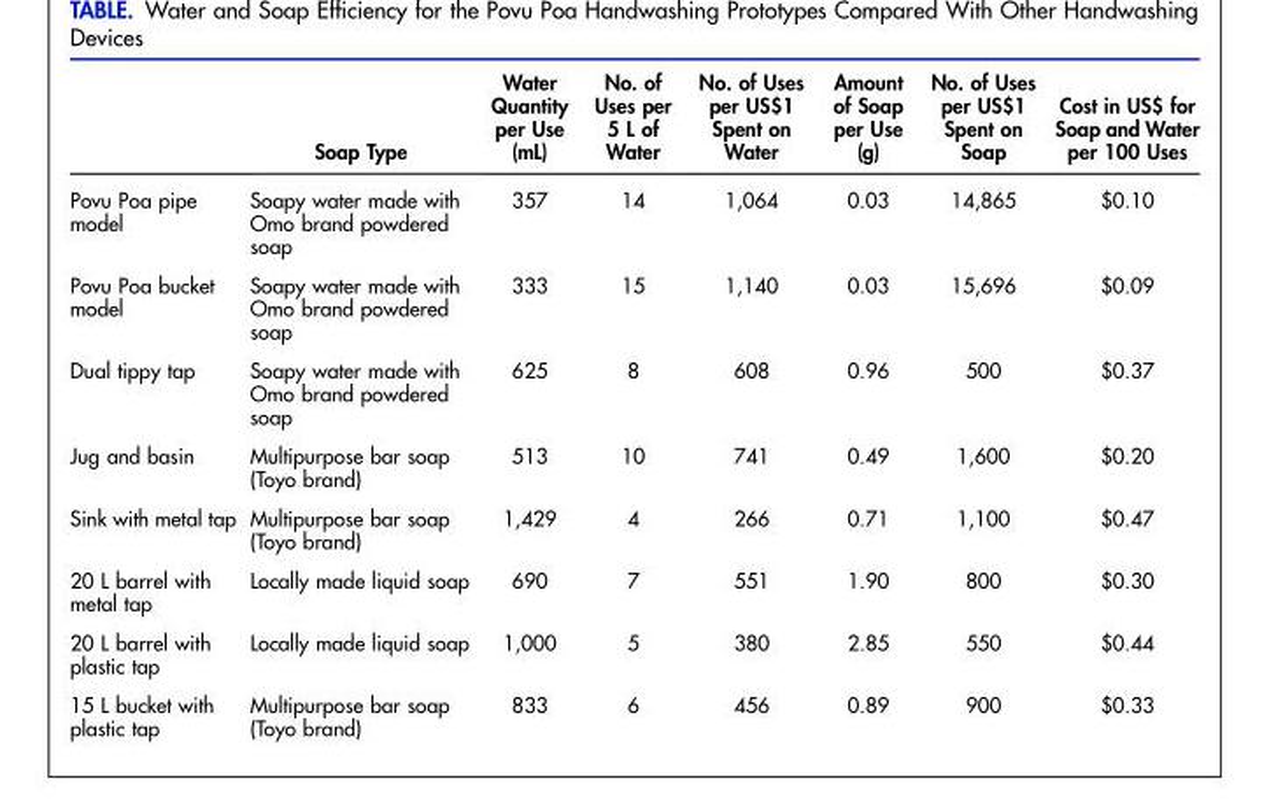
<table><thead><tr><td></td><td>Soap Type</td><td>Water Quantity per Use (mL)</td><td>No. of Uses per 5 L of Water</td><td>No. of Uses per US$1 Spent on Water</td><td>Amount of Soap per Use (g)</td><td>No. of Uses per US$1 Spent on Soap</td><td>Cost in US$ for Soap and Water per 100 Uses</td></tr></thead><tbody><tr><td>Povu Poa pipe model</td><td>Soapy water made with Omo brand powdered soap</td><td>357</td><td>14</td><td>1,064</td><td>0.03</td><td>14,865</td><td>$0.10</td></tr><tr><td>Povu Poa bucket model</td><td>Soapy water made with Omo brand powdered soap</td><td>333</td><td>15</td><td>1,140</td><td>0.03</td><td>15,696</td><td>$0.09</td></tr><tr><td>Dual tippy tap</td><td>Soapy water made with Omo brand powdered soap</td><td>625</td><td>8</td><td>608</td><td>0.96</td><td>500</td><td>$0.37</td></tr><tr><td>Jug and basin</td><td>Multipurpose bar soap (Toyo brand)</td><td>513</td><td>10</td><td>741</td><td>0.49</td><td>1,600</td><td>$0.20</td></tr><tr><td>Sink with metal tap</td><td>Multipurpose bar soap (Toyo brand)</td><td>1,429</td><td>4</td><td>266</td><td>0.71</td><td>1,100</td><td>$0.47</td></tr><tr><td>20 L barrel with metal tap</td><td>Locally made liquid soap</td><td>690</td><td>7</td><td>551</td><td>1.90</td><td>800</td><td>$0.30</td></tr><tr><td>20 L barrel with plastic tap</td><td>Locally made liquid soap</td><td>1,000</td><td>5</td><td>380</td><td>2.85</td><td>550</td><td>$0.44</td></tr><tr><td>15 L bucket with plastic tap</td><td>Multipurpose bar soap (Toyo brand)</td><td>833</td><td>6</td><td>456</td><td>0.89</td><td>900</td><td>$0.33</td></tr></tbody></table>